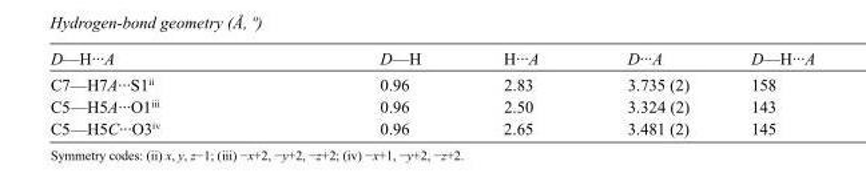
<table><tbody><tr><td>D—H···A</td><td>D—H</td><td>H···A</td><td>D···A</td><td>D—H···A</td></tr><tr><td>C7—H7A···S1<sup>ii</sup></td><td>0.96</td><td>2.83</td><td>3.735 (2)</td><td>158</td></tr><tr><td>C5—H5A···O1<sup>iii</sup></td><td>0.96</td><td>2.50</td><td>3.324 (2)</td><td>143</td></tr><tr><td>C5—H5C···O3<sup>iv</sup></td><td>0.96</td><td>2.65</td><td>3.481 (2)</td><td>145</td></tr></tbody></table>